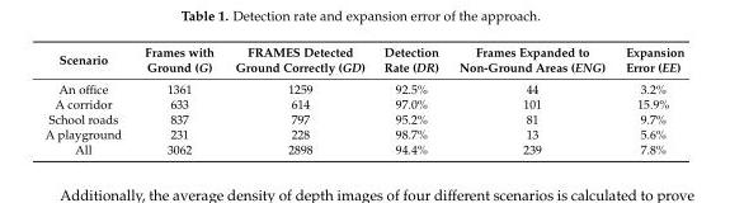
<table><thead><tr><td>Scenario</td><td>Frames with Ground (G)</td><td>FRAMES Detected Ground Correctly (GD)</td><td>Detection Rate (DR)</td><td>Frames Expanded to Non-Ground Areas (ENG)</td><td>Expansion Error (EE)</td></tr></thead><tbody><tr><td>An office</td><td>1361</td><td>1259</td><td>92.5%</td><td>44</td><td>3.2%</td></tr><tr><td>A corridor</td><td>633</td><td>614</td><td>97.0%</td><td>101</td><td>15.9%</td></tr><tr><td>School roads</td><td>837</td><td>797</td><td>95.2%</td><td>81</td><td>9.7%</td></tr><tr><td>A playground</td><td>231</td><td>228</td><td>98.7%</td><td>13</td><td>5.6%</td></tr><tr><td>All</td><td>3062</td><td>2898</td><td>94.4%</td><td>239</td><td>7.8%</td></tr></tbody></table>